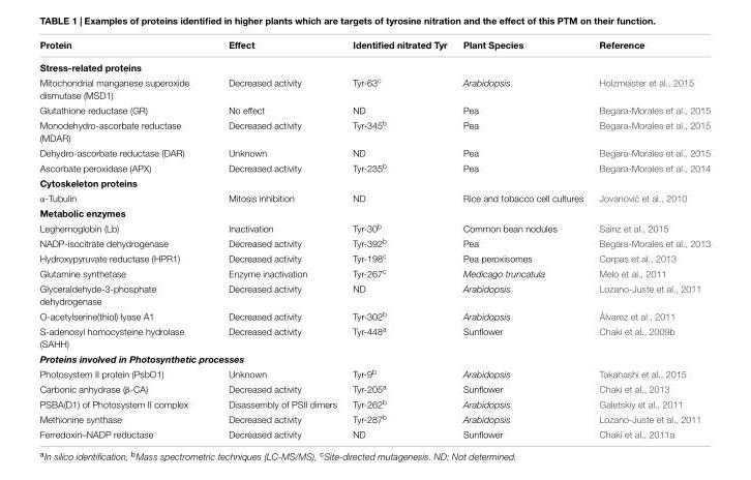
<table><thead><tr><td>Protein</td><td>Effect</td><td>Identified nitrated Tyr</td><td>Plant Species</td><td>Reference</td></tr></thead><tbody><tr><td colspan="5">Stress-related proteins</td></tr><tr><td>Mitochondrial manganese superoxide dismutase (MSD1)</td><td>Decreased activity</td><td>Tyr-63<sup>c</sup></td><td>Arabidopsis</td><td>Holzmeister et al., 2015</td></tr><tr><td>Glutathione reductase (GR)</td><td>No effect</td><td>ND</td><td>Pea</td><td>Begara-Morales et al., 2015</td></tr><tr><td>Monodehydro-ascorbate reductase (MDAR)</td><td>Decreased activity</td><td>Tyr-345<sup>b</sup></td><td>Pea</td><td>Begara-Morales et al., 2015</td></tr><tr><td>Dehydro-ascorbate reductase (DAR)</td><td>Unknown</td><td>ND</td><td>Pea</td><td>Begara-Morales et al., 2015</td></tr><tr><td>Ascorbate peroxidase (APX)</td><td>Decreased activity</td><td>Tyr-235<sup>b</sup></td><td>Pea</td><td>Begara-Morales et al., 2014</td></tr><tr><td colspan="5">Cytoskeleton proteins</td></tr><tr><td>α-Tubulin</td><td>Mitosis inhibition</td><td>ND</td><td>Rice and tobacco cell cultures</td><td>Jovanovi ´c et al., 2010</td></tr><tr><td colspan="5">Metabolic enzymes</td></tr><tr><td>Leghemoglobin (Lb)</td><td>Inactivation</td><td>Tyr-30<sup>b</sup></td><td>Common bean nodules</td><td>Sainz et al., 2015</td></tr><tr><td>NADP-isocitrate dehydrogenase</td><td>Decreased activity</td><td>Tyr-392<sup>b</sup></td><td>Pea</td><td>Begara-Morales et al., 2013</td></tr><tr><td>Hydroxypyruvate reductase (HPR1)</td><td>Decreased activity</td><td>Tyr-198<sup>c</sup></td><td>Pea peroxisomes</td><td>Corpas et al., 2013</td></tr><tr><td>Glutamine synthetase</td><td>Enzyme inactivation</td><td>Tyr-267<sup>c</sup></td><td>Medicago truncatula</td><td>Melo et al., 2011</td></tr><tr><td>Glyceraldehyde-3-phosphate dehydrogenase</td><td>Decreased activity</td><td>ND</td><td>Arabidopsis</td><td>Lozano-Juste et al., 2011</td></tr><tr><td>O-acetylserine(thiol) lyase A1</td><td>Decreased activity</td><td>Tyr-302<sup>b</sup></td><td>Arabidopsis</td><td>Álvarez et al., 2011</td></tr><tr><td>S-adenosyl homocysteine hydrolase (SAHH)</td><td>Decreased activity</td><td>Tyr-448<sup>a</sup></td><td>Sunflower</td><td>Chaki et al., 2009b</td></tr><tr><td colspan="5">Proteins involved in Photosynthetic processes</td></tr><tr><td>Photosystem II protein (PsbO1)</td><td>Unknown</td><td>Tyr-9<sup>b</sup></td><td>Arabidopsis</td><td>Takahashi et al., 2015</td></tr><tr><td>Carbonic anhydrase (β-CA)</td><td>Decreased activity</td><td>Tyr-205<sup>a</sup></td><td>Sunflower</td><td>Chaki et al., 2013</td></tr><tr><td>PSBA(D1) of Photosystem II complex</td><td>Disassembly of PSII dimers</td><td>Tyr-262<sup>b</sup></td><td>Arabidopsis</td><td>Galetskiy et al., 2011</td></tr><tr><td>Methionine synthase</td><td>Decreased activity</td><td>Tyr-287<sup>b</sup></td><td>Arabidopsis</td><td>Lozano-Juste et al., 2011</td></tr><tr><td>Ferredoxin–NADP reductase</td><td>Decreased activity</td><td>ND</td><td>Sunflower</td><td>Chaki et al., 2011a</td></tr></tbody></table>